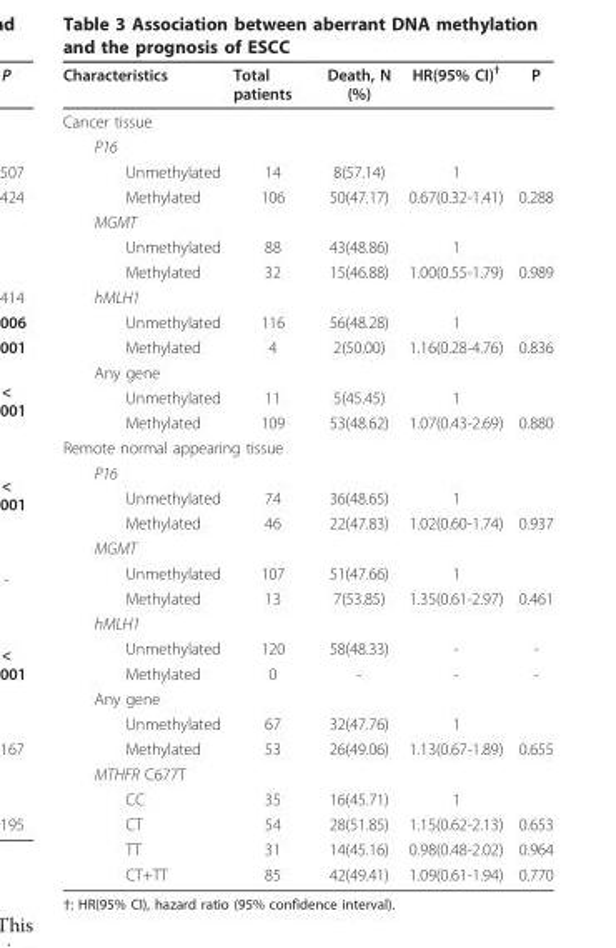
<table><thead><tr><td>Characteristics</td><td>Total patients</td><td>Death, N (%)</td><td>HR(95% CI)<sup>†</sup></td><td>P</td></tr></thead><tbody><tr><td colspan="5">Cancer tissue</td></tr><tr><td colspan="5">P16</td></tr><tr><td>Unmethylated</td><td>14</td><td>8(57.14)</td><td>1</td><td></td></tr><tr><td>Methylated</td><td>106</td><td>50(47.17)</td><td>0.67(0.32-1.41)</td><td>0.288</td></tr><tr><td colspan="5">MGMT</td></tr><tr><td>Unmethylated</td><td>88</td><td>43(48.86)</td><td>1</td><td></td></tr><tr><td>Methylated</td><td>32</td><td>15(46.88)</td><td>1.00(0.55-1.79)</td><td>0.989</td></tr><tr><td colspan="5">hMLH1</td></tr><tr><td>Unmethylated</td><td>116</td><td>56(48.28)</td><td>1</td><td></td></tr><tr><td>Methylated</td><td>4</td><td>2(50.00)</td><td>1.16(0.28-4.76)</td><td>0.836</td></tr><tr><td colspan="5">Any gene</td></tr><tr><td>Unmethylated</td><td>11</td><td>5(45.45)</td><td>1</td><td></td></tr><tr><td>Methylated</td><td>109</td><td>53(48.62)</td><td>1.07(0.43-2.69)</td><td>0.880</td></tr><tr><td colspan="5">Remote normal appearing tissue</td></tr><tr><td colspan="5">P16</td></tr><tr><td>Unmethylated</td><td>74</td><td>36(48.65)</td><td>1</td><td></td></tr><tr><td>Methylated</td><td>46</td><td>22(47.83)</td><td>1.02(0.60-1.74)</td><td>0.937</td></tr><tr><td colspan="5">MGMT</td></tr><tr><td>Unmethylated</td><td>107</td><td>51(47.66)</td><td>1</td><td></td></tr><tr><td>Methylated</td><td>13</td><td>7(53.85)</td><td>1.35(0.61-2.97)</td><td>0.461</td></tr><tr><td colspan="5">hMLH1</td></tr><tr><td>Unmethylated</td><td>120</td><td>58(48.33)</td><td>-</td><td>-</td></tr><tr><td>Methylated</td><td>0</td><td>-</td><td>-</td><td>-</td></tr><tr><td colspan="5">Any gene</td></tr><tr><td>Unmethylated</td><td>67</td><td>32(47.76)</td><td>1</td><td></td></tr><tr><td>Methylated</td><td>53</td><td>26(49.06)</td><td>1.13(0.67-1.89)</td><td>0.655</td></tr><tr><td colspan="5">MTHFR C677T</td></tr><tr><td>CC</td><td>35</td><td>16(45.71)</td><td>1</td><td></td></tr><tr><td>CT</td><td>54</td><td>28(51.85)</td><td>1.15(0.62-2.13)</td><td>0.653</td></tr><tr><td>TT</td><td>31</td><td>14(45.16)</td><td>0.98(0.48-2.02)</td><td>0.964</td></tr><tr><td>CT+TT</td><td>85</td><td>42(49.41)</td><td>1.09(0.61-1.94)</td><td>0.770</td></tr></tbody></table>